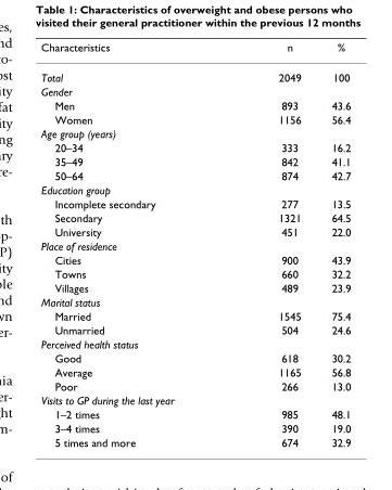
<table><thead><tr><td>Characteristics</td><td>n</td><td>%</td></tr></thead><tbody><tr><td>Total</td><td>2049</td><td>100</td></tr><tr><td colspan="3">Gender</td></tr><tr><td>Men</td><td>893</td><td>43.6</td></tr><tr><td>Women</td><td>1156</td><td>56.4</td></tr><tr><td colspan="3">Age group (years)</td></tr><tr><td>20–34</td><td>333</td><td>16.2</td></tr><tr><td>35–49</td><td>842</td><td>41.1</td></tr><tr><td>50–64</td><td>874</td><td>42.7</td></tr><tr><td colspan="3">Education group</td></tr><tr><td>Incomplete secondary</td><td>277</td><td>13.5</td></tr><tr><td>Secondary</td><td>1321</td><td>64.5</td></tr><tr><td>University</td><td>451</td><td>22.0</td></tr><tr><td colspan="3">Place of residence</td></tr><tr><td>Cities</td><td>900</td><td>43.9</td></tr><tr><td>Towns</td><td>660</td><td>32.2</td></tr><tr><td>Villages</td><td>489</td><td>23.9</td></tr><tr><td colspan="3">Marital status</td></tr><tr><td>Married</td><td>1545</td><td>75.4</td></tr><tr><td>Unmarried</td><td>504</td><td>24.6</td></tr><tr><td colspan="3">Perceived health status</td></tr><tr><td>Good</td><td>618</td><td>30.2</td></tr><tr><td>Average</td><td>1165</td><td>56.8</td></tr><tr><td>Poor</td><td>266</td><td>13.0</td></tr><tr><td colspan="3">Visits to GP during the last year</td></tr><tr><td>1–2 times</td><td>985</td><td>48.1</td></tr><tr><td>3–4 times</td><td>390</td><td>19.0</td></tr><tr><td>5 times and more</td><td>674</td><td>32.9</td></tr></tbody></table>